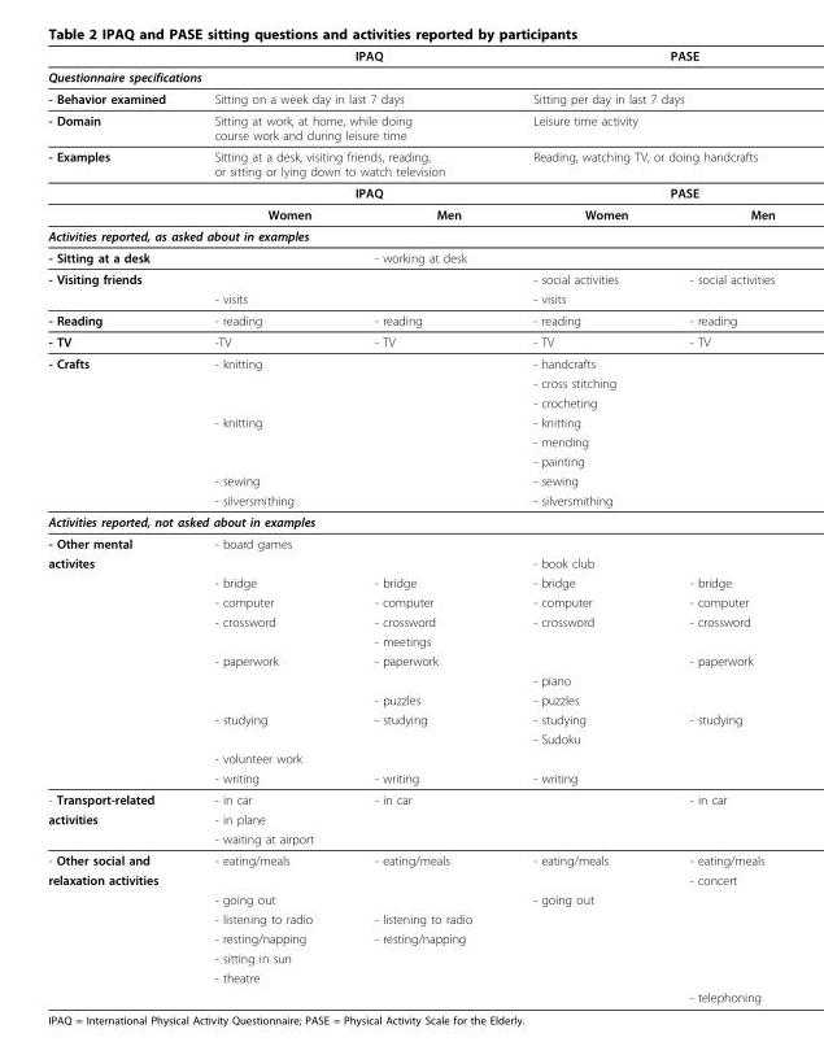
<table><thead><tr><td></td><td colspan="2">IPAQ</td><td colspan="2">PASE</td></tr></thead><tbody><tr><td colspan="5">Questionnaire specifications</td></tr><tr><td>- Behavior examined</td><td colspan="2">Sitting on a week day in last 7 days</td><td colspan="2">Sitting per day in last 7 days</td></tr><tr><td>- Domain</td><td colspan="2">Sitting at work, at home, while doing course work and during leisure time</td><td colspan="2">Leisure time activity</td></tr><tr><td rowspan="3">- Examples</td><td colspan="2">Sitting at a desk, visiting friends, reading, or sitting or lying down to watch television</td><td colspan="2">Reading, watching TV, or doing handcrafts</td></tr><tr><td colspan="2">IPAQ</td><td colspan="2">PASE</td></tr><tr><td>Women</td><td>Men</td><td>Women</td><td>Men</td></tr><tr><td colspan="5">Activities reported, as asked about in examples</td></tr><tr><td>- Sitting at a desk</td><td></td><td>- working at desk</td><td></td><td></td></tr><tr><td rowspan="2">- Visiting friends</td><td></td><td></td><td>- social activities</td><td>- social activities</td></tr><tr><td>- visits</td><td></td><td>- visits</td><td></td></tr><tr><td>- Reading</td><td>- reading</td><td>- reading</td><td>- reading</td><td>- reading</td></tr><tr><td>- TV</td><td>-TV</td><td>- TV</td><td>- TV</td><td>- TV</td></tr><tr><td rowspan="8">- Crafts</td><td>- knitting</td><td></td><td>- handcrafts</td><td></td></tr><tr><td></td><td></td><td>- cross stitching</td><td></td></tr><tr><td></td><td></td><td>- crocheting</td><td></td></tr><tr><td>- knitting</td><td></td><td>- knitting</td><td></td></tr><tr><td></td><td></td><td>- mending</td><td></td></tr><tr><td></td><td></td><td>- painting</td><td></td></tr><tr><td>- sewing</td><td></td><td>- sewing</td><td></td></tr><tr><td>- silversmithing</td><td></td><td>- silversmithing</td><td></td></tr><tr><td colspan="5">Activities reported, not asked about in examples</td></tr><tr><td>- Other mental</td><td>- board games</td><td></td><td></td><td></td></tr><tr><td rowspan="12">activites</td><td></td><td></td><td>- book club</td><td></td></tr><tr><td>- bridge</td><td>- bridge</td><td>- bridge</td><td>- bridge</td></tr><tr><td>- computer</td><td>- computer</td><td>- computer</td><td>- computer</td></tr><tr><td>- crossword</td><td>- crossword</td><td>- crossword</td><td>- crossword</td></tr><tr><td></td><td>- meetings</td><td></td><td></td></tr><tr><td>- paperwork</td><td>- paperwork</td><td></td><td>- paperwork</td></tr><tr><td></td><td></td><td>- piano</td><td></td></tr><tr><td></td><td>- puzzles</td><td>- puzzles</td><td></td></tr><tr><td>- studying</td><td>- studying</td><td>- studying</td><td>- studying</td></tr><tr><td></td><td></td><td>- Sudoku</td><td></td></tr><tr><td>- volunteer work</td><td></td><td></td><td></td></tr><tr><td>- writing</td><td>- writing</td><td>- writing</td><td></td></tr><tr><td>- Transport-related</td><td>- in car</td><td>- in car</td><td></td><td>- in car</td></tr><tr><td rowspan="2">activities</td><td>- in plane</td><td></td><td></td><td></td></tr><tr><td>- waiting at airport</td><td></td><td></td><td></td></tr><tr><td>- Other social and</td><td>- eating/meals</td><td>- eating/meals</td><td>- eating/meals</td><td>- eating/meals</td></tr><tr><td rowspan="7">relaxation activities</td><td></td><td></td><td></td><td>- concert</td></tr><tr><td>- going out</td><td></td><td>- going out</td><td></td></tr><tr><td>- listening to radio</td><td>- listening to radio</td><td></td><td></td></tr><tr><td>- resting/napping</td><td>- resting/napping</td><td></td><td></td></tr><tr><td>- sitting in sun</td><td></td><td></td><td></td></tr><tr><td>- theatre</td><td></td><td></td><td></td></tr><tr><td></td><td></td><td></td><td>- telephoning</td></tr></tbody></table>